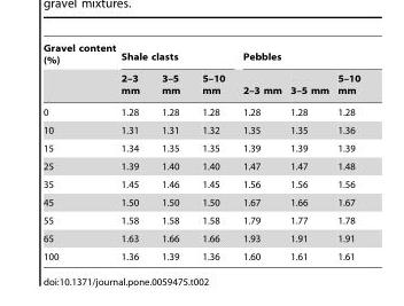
<table><thead><tr><td rowspan="2">Gravel content (%)</td><td colspan="3">Shale clasts</td><td colspan="3">Pebbles</td></tr><tr><td>2–3 mm</td><td>3–5 mm</td><td>5–10 mm</td><td>2–3 mm</td><td>3–5 mm</td><td>5–10 mm</td></tr></thead><tbody><tr><td>0</td><td>1.28</td><td>1.28</td><td>1.28</td><td>1.28</td><td>1.28</td><td>1.28</td></tr><tr><td>10</td><td>1.31</td><td>1.31</td><td>1.32</td><td>1.35</td><td>1.35</td><td>1.36</td></tr><tr><td>15</td><td>1.34</td><td>1.35</td><td>1.35</td><td>1.39</td><td>1.39</td><td>1.39</td></tr><tr><td>25</td><td>1.39</td><td>1.40</td><td>1.40</td><td>1.47</td><td>1.47</td><td>1.48</td></tr><tr><td>35</td><td>1.45</td><td>1.46</td><td>1.45</td><td>1.56</td><td>1.56</td><td>1.56</td></tr><tr><td>45</td><td>1.50</td><td>1.50</td><td>1.50</td><td>1.67</td><td>1.66</td><td>1.67</td></tr><tr><td>55</td><td>1.58</td><td>1.58</td><td>1.58</td><td>1.79</td><td>1.77</td><td>1.78</td></tr><tr><td>65</td><td>1.63</td><td>1.66</td><td>1.66</td><td>1.93</td><td>1.91</td><td>1.91</td></tr><tr><td>100</td><td>1.36</td><td>1.39</td><td>1.36</td><td>1.60</td><td>1.61</td><td>1.61</td></tr></tbody></table>